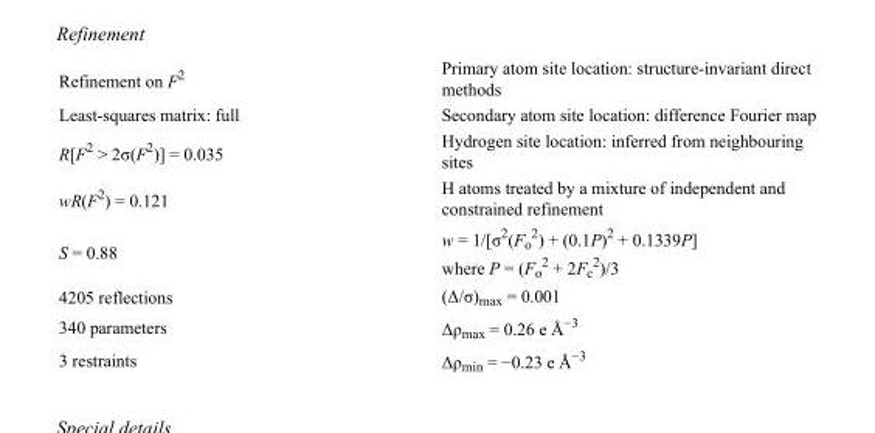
<table><tbody><tr><td>Refinement on F<sup>2</sup></td><td>Primary atom site location: structure-invariant direct methods</td></tr><tr><td>Least-squares matrix: full</td><td>Secondary atom site location: difference Fourier map</td></tr><tr><td>R[F<sup>2</sup> &gt; 2σ(F<sup>2</sup>)] = 0.035</td><td>Hydrogen site location: inferred from neighbouring sites</td></tr><tr><td>wR(F<sup>2</sup>) = 0.121</td><td>H atoms treated by a mixture of independent and constrained refinement</td></tr><tr><td>S = 0.88</td><td>w = 1/[σ<sup>2</sup>(F<sub>o</sub> <sup>2</sup>) + (0.1P)<sup>2</sup> + 0.1339P] where P = (F<sub>o</sub> <sup>2</sup> + 2F<sub>c</sub> <sup>2</sup>)/3</td></tr><tr><td>4205 reflections</td><td>(Δ/σ)<sub>max</sub> = 0.001</td></tr><tr><td>340 parameters</td><td>Δρ<sub>max</sub> = 0.26 e Å<sup>−3</sup></td></tr><tr><td>3 restraints</td><td>Δρ<sub>min</sub> = −0.23 e Å<sup>−3</sup></td></tr></tbody></table>